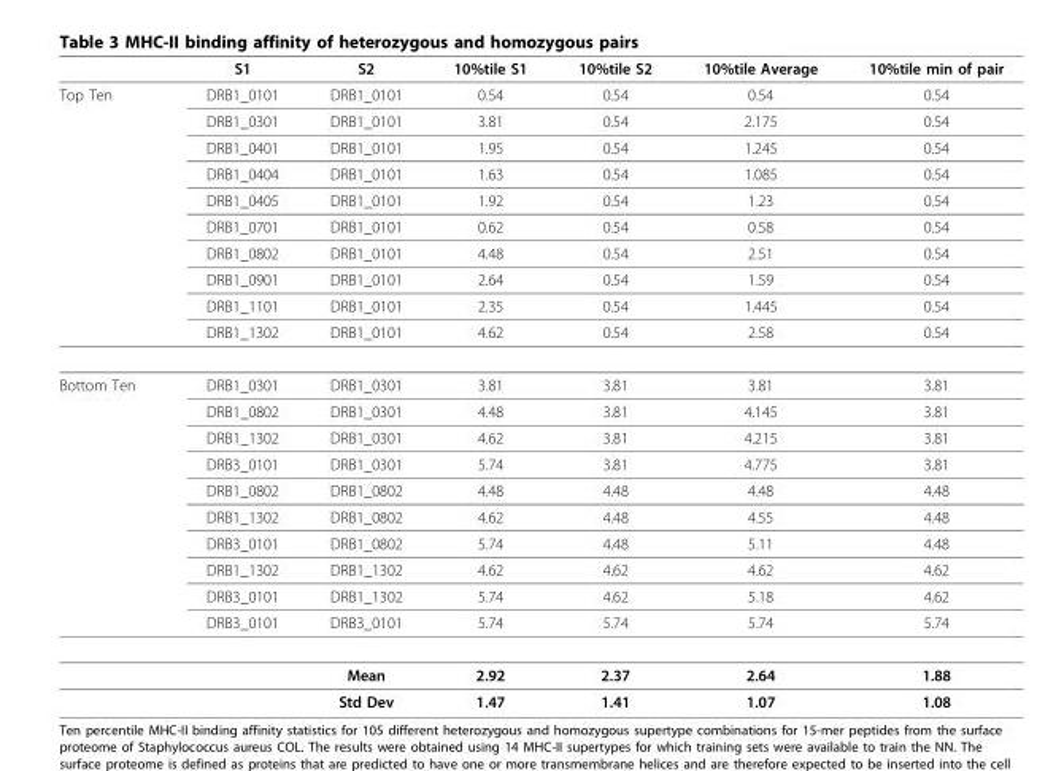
<table><thead><tr><td></td><td>S1</td><td>S2</td><td>10%tile S1</td><td>10%tile S2</td><td>10%tile Average</td><td>10%tile min of pair</td></tr></thead><tbody><tr><td rowspan="10">Top Ten</td><td>DRB1_0101</td><td>DRB1_0101</td><td>0.54</td><td>0.54</td><td>0.54</td><td>0.54</td></tr><tr><td>DRB1_0301</td><td>DRB1_0101</td><td>3.81</td><td>0.54</td><td>2.175</td><td>0.54</td></tr><tr><td>DRB1_0401</td><td>DRB1_0101</td><td>1.95</td><td>0.54</td><td>1.245</td><td>0.54</td></tr><tr><td>DRB1_0404</td><td>DRB1_0101</td><td>1.63</td><td>0.54</td><td>1.085</td><td>0.54</td></tr><tr><td>DRB1_0405</td><td>DRB1_0101</td><td>1.92</td><td>0.54</td><td>1.23</td><td>0.54</td></tr><tr><td>DRB1_0701</td><td>DRB1_0101</td><td>0.62</td><td>0.54</td><td>0.58</td><td>0.54</td></tr><tr><td>DRB1_0802</td><td>DRB1_0101</td><td>4.48</td><td>0.54</td><td>2.51</td><td>0.54</td></tr><tr><td>DRB1_0901</td><td>DRB1_0101</td><td>2.64</td><td>0.54</td><td>1.59</td><td>0.54</td></tr><tr><td>DRB1_1101</td><td>DRB1_0101</td><td>2.35</td><td>0.54</td><td>1.445</td><td>0.54</td></tr><tr><td>DRB1_1302</td><td>DRB1_0101</td><td>4.62</td><td>0.54</td><td>2.58</td><td>0.54</td></tr><tr><td rowspan="12">Bottom Ten</td><td>DRB1_0301</td><td>DRB1_0301</td><td>3.81</td><td>3.81</td><td>3.81</td><td>3.81</td></tr><tr><td>DRB1_0802</td><td>DRB1_0301</td><td>4.48</td><td>3.81</td><td>4.145</td><td>3.81</td></tr><tr><td>DRB1_1302</td><td>DRB1_0301</td><td>4.62</td><td>3.81</td><td>4.215</td><td>3.81</td></tr><tr><td>DRB3_0101</td><td>DRB1_0301</td><td>5.74</td><td>3.81</td><td>4.775</td><td>3.81</td></tr><tr><td>DRB1_0802</td><td>DRB1_0802</td><td>4.48</td><td>4.48</td><td>4.48</td><td>4.48</td></tr><tr><td>DRB1_1302</td><td>DRB1_0802</td><td>4.62</td><td>4.48</td><td>4.55</td><td>4.48</td></tr><tr><td>DRB3_0101</td><td>DRB1_0802</td><td>5.74</td><td>4.48</td><td>5.11</td><td>4.48</td></tr><tr><td>DRB1_1302</td><td>DRB1_1302</td><td>4.62</td><td>4.62</td><td>4.62</td><td>4.62</td></tr><tr><td>DRB3_0101</td><td>DRB1_1302</td><td>5.74</td><td>4.62</td><td>5.18</td><td>4.62</td></tr><tr><td>DRB3_0101</td><td>DRB3_0101</td><td>5.74</td><td>5.74</td><td>5.74</td><td>5.74</td></tr><tr><td></td><td>Mean</td><td>2.92</td><td>2.37</td><td>2.64</td><td>1.88</td></tr><tr><td></td><td>Std Dev</td><td>1.47</td><td>1.41</td><td>1.07</td><td>1.08</td></tr></tbody></table>